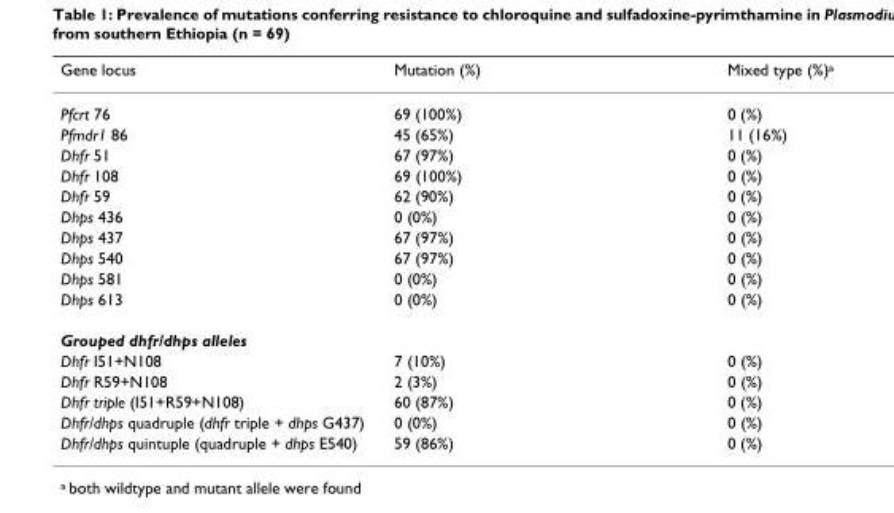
<table><thead><tr><td>Gene locus</td><td>Mutation (%)</td><td>Mixed type (%)<sup>a</sup></td></tr></thead><tbody><tr><td>Pfcrt 76</td><td>69 (100%)</td><td>0 (%)</td></tr><tr><td>Pfmdr1 86</td><td>45 (65%)</td><td>11 (16%)</td></tr><tr><td>Dhfr 51</td><td>67 (97%)</td><td>0 (%)</td></tr><tr><td>Dhfr 108</td><td>69 (100%)</td><td>0 (%)</td></tr><tr><td>Dhfr 59</td><td>62 (90%)</td><td>0 (%)</td></tr><tr><td>Dhps 436</td><td>0 (0%)</td><td>0 (%)</td></tr><tr><td>Dhps 437</td><td>67 (97%)</td><td>0 (%)</td></tr><tr><td>Dhps 540</td><td>67 (97%)</td><td>0 (%)</td></tr><tr><td>Dhps 581</td><td>0 (0%)</td><td>0 (%)</td></tr><tr><td>Dhps 613</td><td>0 (0%)</td><td>0 (%)</td></tr><tr><td colspan="3">Grouped dhfr/dhps alleles</td></tr><tr><td>Dhfr I51+N108</td><td>7 (10%)</td><td>0 (%)</td></tr><tr><td>Dhfr R59+N108</td><td>2 (3%)</td><td>0 (%)</td></tr><tr><td>Dhfr triple (I51+R59+N108)</td><td>60 (87%)</td><td>0 (%)</td></tr><tr><td>Dhfr/dhps quadruple (dhfr triple + dhps G437)</td><td>0 (0%)</td><td>0 (%)</td></tr><tr><td>Dhfr/dhps quintuple (quadruple + dhps E540)</td><td>59 (86%)</td><td>0 (%)</td></tr></tbody></table>